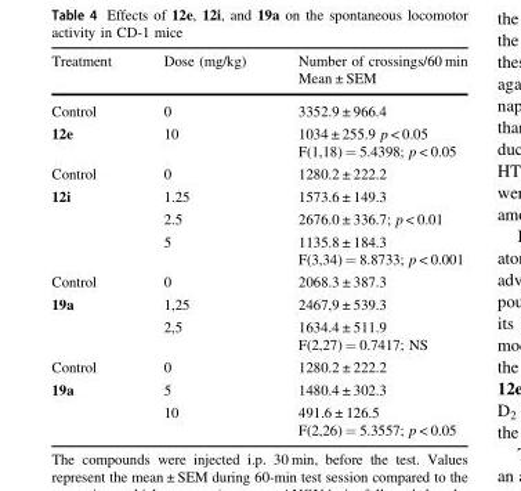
<table><thead><tr><td>Treatment</td><td>Dose (mg/kg)</td><td>Number of crossings/60 min Mean ± SEM</td></tr></thead><tbody><tr><td>Control</td><td>0</td><td>3352.9 ± 966.4</td></tr><tr><td>12e</td><td>10</td><td>1034 ± 255.9 p &lt; 0.05 F(1,18) = 5.4398; p &lt; 0.05</td></tr><tr><td>Control</td><td>0</td><td>1280.2 ± 222.2</td></tr><tr><td rowspan="3">12i</td><td>1.25</td><td>1573.6 ± 149.3</td></tr><tr><td>2.5</td><td>2676.0 ± 336.7; p &lt; 0.01</td></tr><tr><td>5</td><td>1135.8 ± 184.3 F(3,34) = 8.8733; p &lt; 0.001</td></tr><tr><td>Control</td><td>0</td><td>2068.3 ± 387.3</td></tr><tr><td rowspan="2">19a</td><td>1,25</td><td>2467,9 ± 539.3</td></tr><tr><td>2,5</td><td>1634.4 ± 511.9 F(2,27) = 0.7417; NS</td></tr><tr><td>Control</td><td>0</td><td>1280.2 ± 222.2</td></tr><tr><td rowspan="2">19a</td><td>5</td><td>1480.4 ± 302.3</td></tr><tr><td>10</td><td>491.6 ± 126.5 F(2,26) = 5.3557; p &lt; 0.05</td></tr></tbody></table>